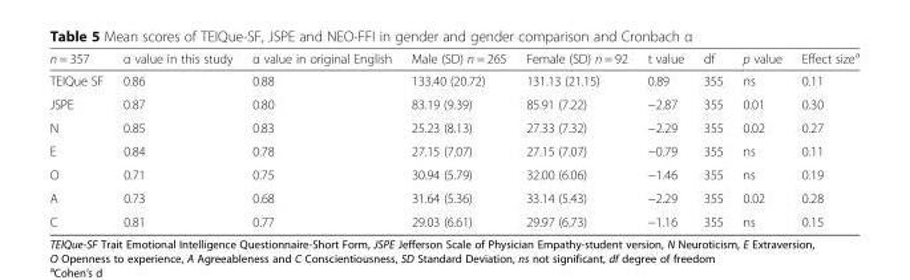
<table><thead><tr><td>n = 357</td><td>α value in this study</td><td>α value in original English</td><td>Male (SD) n = 265</td><td>Female (SD) n = 92</td><td>t value</td><td>df</td><td>p value</td><td>Effect size<sup>a</sup></td></tr></thead><tbody><tr><td>TEIQue SF</td><td>0.86</td><td>0.88</td><td>133.40 (20.72)</td><td>131.13 (21.15)</td><td>0.89</td><td>355</td><td>ns</td><td>0.11</td></tr><tr><td>JSPE</td><td>0.87</td><td>0.80</td><td>83.19 (9.39)</td><td>85.91 (7.22)</td><td>−2.87</td><td>355</td><td>0.01</td><td>0.30</td></tr><tr><td>N</td><td>0.85</td><td>0.83</td><td>25.23 (8.13)</td><td>27.33 (7.32)</td><td>−2.29</td><td>355</td><td>0.02</td><td>0.27</td></tr><tr><td>E</td><td>0.84</td><td>0.78</td><td>27.15 (7.07)</td><td>27.15 (7.07)</td><td>−0.79</td><td>355</td><td>ns</td><td>0.11</td></tr><tr><td>O</td><td>0.71</td><td>0.75</td><td>30.94 (5.79)</td><td>32.00 (6.06)</td><td>−1.46</td><td>355</td><td>ns</td><td>0.19</td></tr><tr><td>A</td><td>0.73</td><td>0.68</td><td>31.64 (5.36)</td><td>33.14 (5.43)</td><td>−2.29</td><td>355</td><td>0.02</td><td>0.28</td></tr><tr><td>C</td><td>0.81</td><td>0.77</td><td>29.03 (6.61)</td><td>29.97 (6.73)</td><td>−1.16</td><td>355</td><td>ns</td><td>0.15</td></tr></tbody></table>